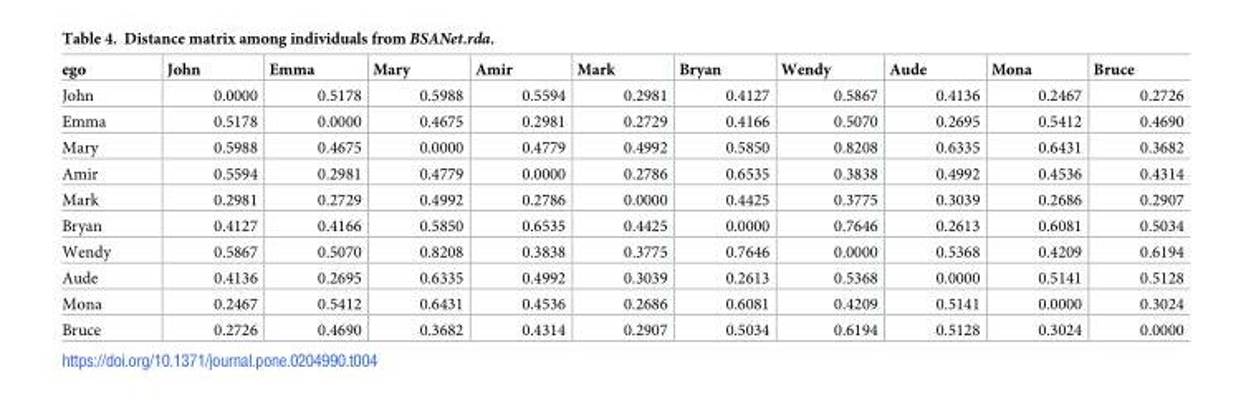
<table><thead><tr><td>ego</td><td>John</td><td>Emma</td><td>Mary</td><td>Amir</td><td>Mark</td><td>Bryan</td><td>Wendy</td><td>Aude</td><td>Mona</td><td>Bruce</td></tr></thead><tbody><tr><td>John</td><td>0.0000</td><td>0.5178</td><td>0.5988</td><td>0.5594</td><td>0.2981</td><td>0.4127</td><td>0.5867</td><td>0.4136</td><td>0.2467</td><td>0.2726</td></tr><tr><td>Emma</td><td>0.5178</td><td>0.0000</td><td>0.4675</td><td>0.2981</td><td>0.2729</td><td>0.4166</td><td>0.5070</td><td>0.2695</td><td>0.5412</td><td>0.4690</td></tr><tr><td>Mary</td><td>0.5988</td><td>0.4675</td><td>0.0000</td><td>0.4779</td><td>0.4992</td><td>0.5850</td><td>0.8208</td><td>0.6335</td><td>0.6431</td><td>0.3682</td></tr><tr><td>Amir</td><td>0.5594</td><td>0.2981</td><td>0.4779</td><td>0.0000</td><td>0.2786</td><td>0.6535</td><td>0.3838</td><td>0.4992</td><td>0.4536</td><td>0.4314</td></tr><tr><td>Mark</td><td>0.2981</td><td>0.2729</td><td>0.4992</td><td>0.2786</td><td>0.0000</td><td>0.4425</td><td>0.3775</td><td>0.3039</td><td>0.2686</td><td>0.2907</td></tr><tr><td>Bryan</td><td>0.4127</td><td>0.4166</td><td>0.5850</td><td>0.6535</td><td>0.4425</td><td>0.0000</td><td>0.7646</td><td>0.2613</td><td>0.6081</td><td>0.5034</td></tr><tr><td>Wendy</td><td>0.5867</td><td>0.5070</td><td>0.8208</td><td>0.3838</td><td>0.3775</td><td>0.7646</td><td>0.0000</td><td>0.5368</td><td>0.4209</td><td>0.6194</td></tr><tr><td>Aude</td><td>0.4136</td><td>0.2695</td><td>0.6335</td><td>0.4992</td><td>0.3039</td><td>0.2613</td><td>0.5368</td><td>0.0000</td><td>0.5141</td><td>0.5128</td></tr><tr><td>Mona</td><td>0.2467</td><td>0.5412</td><td>0.6431</td><td>0.4536</td><td>0.2686</td><td>0.6081</td><td>0.4209</td><td>0.5141</td><td>0.0000</td><td>0.3024</td></tr><tr><td>Bruce</td><td>0.2726</td><td>0.4690</td><td>0.3682</td><td>0.4314</td><td>0.2907</td><td>0.5034</td><td>0.6194</td><td>0.5128</td><td>0.3024</td><td>0.0000</td></tr></tbody></table>